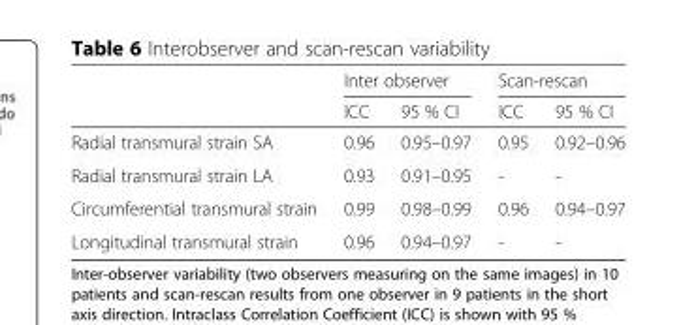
<table><thead><tr><td rowspan="2"></td><td colspan="2">Inter observer</td><td colspan="2">Scan-rescan</td></tr><tr><td>ICC</td><td>95 % CI</td><td>ICC</td><td>95 % CI</td></tr></thead><tbody><tr><td>Radial transmural strain SA</td><td>0.96</td><td>0.95–0.97</td><td>0.95</td><td>0.92–0.96</td></tr><tr><td>Radial transmural strain LA</td><td>0.93</td><td>0.91–0.95</td><td>-</td><td>-</td></tr><tr><td>Circumferential transmural strain</td><td>0.99</td><td>0.98–0.99</td><td>0.96</td><td>0.94–0.97</td></tr><tr><td>Longitudinal transmural strain</td><td>0.96</td><td>0.94–0.97</td><td>-</td><td>-</td></tr></tbody></table>